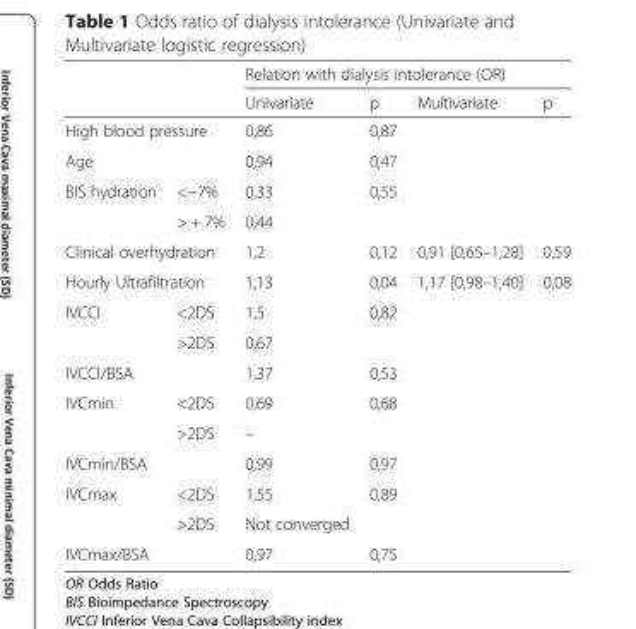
<table><thead><tr><td rowspan="2"></td><td rowspan="2"></td><td colspan="4">Relation with dialysis intolerance (OR)</td></tr><tr><td>Univariate</td><td>p</td><td>Multivariate</td><td>p</td></tr></thead><tbody><tr><td colspan="2">High blood pressure</td><td>0,86</td><td>0,87</td><td></td><td></td></tr><tr><td>Age</td><td></td><td>0,94</td><td>0,47</td><td></td><td></td></tr><tr><td rowspan="2">BIS hydration</td><td>&lt;−7%</td><td>0,33</td><td>0,55</td><td></td><td></td></tr><tr><td>&gt; + 7%</td><td>0,44</td><td></td><td></td><td></td></tr><tr><td colspan="2">Clinical overhydration</td><td>1,2</td><td>0,12</td><td>0,91 [0,65–1,28]</td><td>0,59</td></tr><tr><td colspan="2">Hourly Ultrafiltration</td><td>1,13</td><td>0,04</td><td>1,17 [0,98–1,40]</td><td>0,08</td></tr><tr><td rowspan="2">IVCCI</td><td>&lt;2DS</td><td>1,5</td><td>0,82</td><td></td><td></td></tr><tr><td>&gt;2DS</td><td>0,67</td><td></td><td></td><td></td></tr><tr><td>IVCCI/BSA</td><td></td><td>1,37</td><td>0,53</td><td></td><td></td></tr><tr><td rowspan="2">IVCmin</td><td>&lt;2DS</td><td>0,69</td><td>0,68</td><td></td><td></td></tr><tr><td>&gt;2DS</td><td>–</td><td></td><td></td><td></td></tr><tr><td>IVCmin/BSA</td><td></td><td>0,99</td><td>0,97</td><td></td><td></td></tr><tr><td rowspan="2">IVCmax</td><td>&lt;2DS</td><td>1,55</td><td>0,89</td><td></td><td></td></tr><tr><td>&gt;2DS</td><td>Not converged</td><td></td><td></td><td></td></tr><tr><td>IVCmax/BSA</td><td></td><td>0,97</td><td>0,75</td><td></td><td></td></tr></tbody></table>